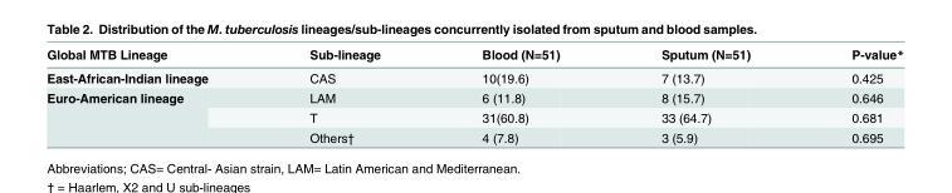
<table><thead><tr><td>Global MTB Lineage</td><td>Sub-lineage</td><td>Blood (N=51)</td><td>Sputum (N=51)</td><td>P-value*</td></tr></thead><tbody><tr><td>East-African-Indian lineage</td><td>CAS</td><td>10(19.6)</td><td>7 (13.7)</td><td>0.425</td></tr><tr><td rowspan="3">Euro-American lineage</td><td>LAM</td><td>6 (11.8)</td><td>8 (15.7)</td><td>0.646</td></tr><tr><td>T</td><td>31(60.8)</td><td>33 (64.7)</td><td>0.681</td></tr><tr><td>Others†</td><td>4 (7.8)</td><td>3 (5.9)</td><td>0.695</td></tr></tbody></table>